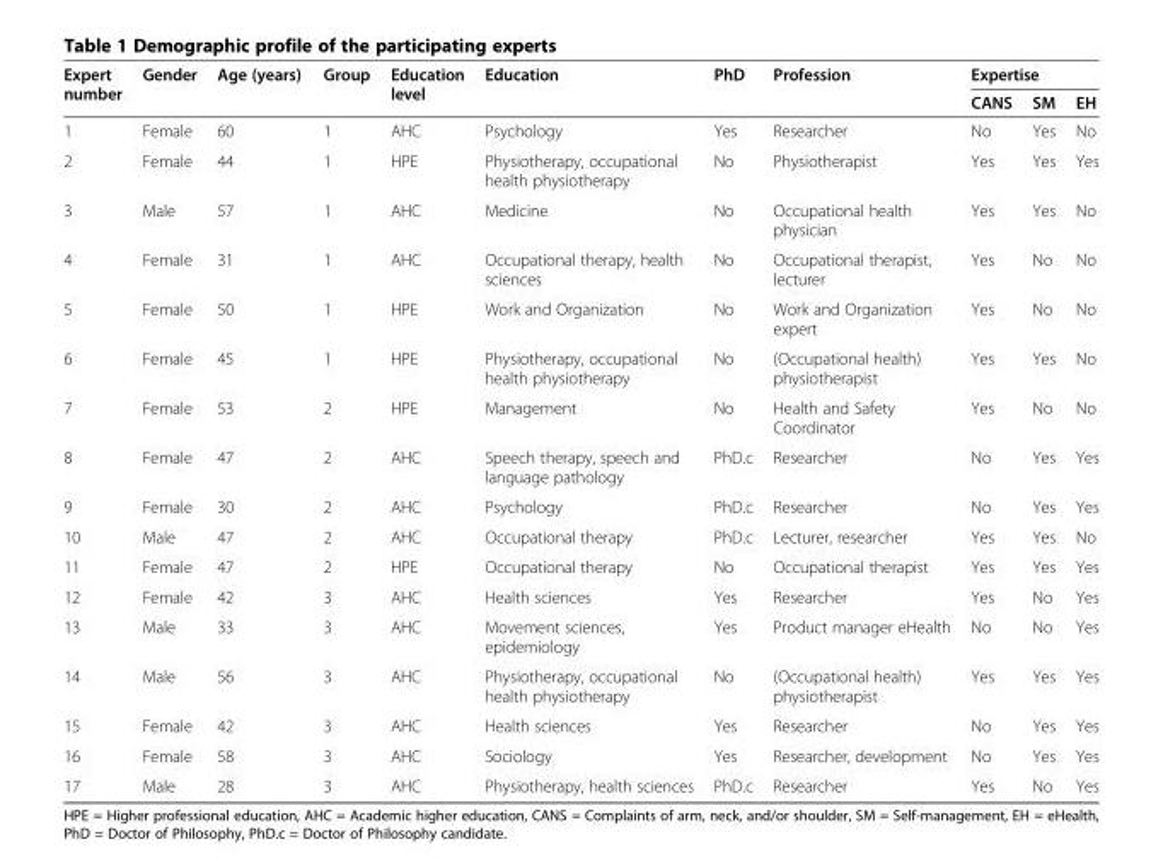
<table><thead><tr><td rowspan="2">Expert number</td><td rowspan="2">Gender</td><td rowspan="2">Age (years)</td><td rowspan="2">Group</td><td rowspan="2">Education level</td><td rowspan="2">Education</td><td rowspan="2">PhD</td><td rowspan="2">Profession</td><td colspan="3">Expertise</td></tr><tr><td>CANS</td><td>SM</td><td>EH</td></tr></thead><tbody><tr><td>1</td><td>Female</td><td>60</td><td>1</td><td>AHC</td><td>Psychology</td><td>Yes</td><td>Researcher</td><td>No</td><td>Yes</td><td>No</td></tr><tr><td>2</td><td>Female</td><td>44</td><td>1</td><td>HPE</td><td>Physiotherapy, occupational health physiotherapy</td><td>No</td><td>Physiotherapist</td><td>Yes</td><td>Yes</td><td>Yes</td></tr><tr><td>3</td><td>Male</td><td>57</td><td>1</td><td>AHC</td><td>Medicine</td><td>No</td><td>Occupational health physician</td><td>Yes</td><td>Yes</td><td>No</td></tr><tr><td>4</td><td>Female</td><td>31</td><td>1</td><td>AHC</td><td>Occupational therapy, health sciences</td><td>No</td><td>Occupational therapist, lecturer</td><td>Yes</td><td>No</td><td>No</td></tr><tr><td>5</td><td>Female</td><td>50</td><td>1</td><td>HPE</td><td>Work and Organization</td><td>No</td><td>Work and Organization expert</td><td>Yes</td><td>No</td><td>No</td></tr><tr><td>6</td><td>Female</td><td>45</td><td>1</td><td>HPE</td><td>Physiotherapy, occupational health physiotherapy</td><td>No</td><td>(Occupational health) physiotherapist</td><td>Yes</td><td>Yes</td><td>No</td></tr><tr><td>7</td><td>Female</td><td>53</td><td>2</td><td>HPE</td><td>Management</td><td>No</td><td>Health and Safety Coordinator</td><td>Yes</td><td>No</td><td>No</td></tr><tr><td>8</td><td>Female</td><td>47</td><td>2</td><td>AHC</td><td>Speech therapy, speech and language pathology</td><td>PhD.c</td><td>Researcher</td><td>No</td><td>Yes</td><td>Yes</td></tr><tr><td>9</td><td>Female</td><td>30</td><td>2</td><td>AHC</td><td>Psychology</td><td>PhD.c</td><td>Researcher</td><td>No</td><td>Yes</td><td>Yes</td></tr><tr><td>10</td><td>Male</td><td>47</td><td>2</td><td>AHC</td><td>Occupational therapy</td><td>PhD.c</td><td>Lecturer, researcher</td><td>Yes</td><td>Yes</td><td>No</td></tr><tr><td>11</td><td>Female</td><td>47</td><td>2</td><td>HPE</td><td>Occupational therapy</td><td>No</td><td>Occupational therapist</td><td>Yes</td><td>Yes</td><td>Yes</td></tr><tr><td>12</td><td>Female</td><td>42</td><td>3</td><td>AHC</td><td>Health sciences</td><td>Yes</td><td>Researcher</td><td>Yes</td><td>No</td><td>Yes</td></tr><tr><td>13</td><td>Male</td><td>33</td><td>3</td><td>AHC</td><td>Movement sciences, epidemiology</td><td>Yes</td><td>Product manager eHealth</td><td>No</td><td>No</td><td>Yes</td></tr><tr><td>14</td><td>Male</td><td>56</td><td>3</td><td>AHC</td><td>Physiotherapy, occupational health physiotherapy</td><td>No</td><td>(Occupational health) physiotherapist</td><td>Yes</td><td>Yes</td><td>Yes</td></tr><tr><td>15</td><td>Female</td><td>42</td><td>3</td><td>AHC</td><td>Health sciences</td><td>Yes</td><td>Researcher</td><td>No</td><td>Yes</td><td>Yes</td></tr><tr><td>16</td><td>Female</td><td>58</td><td>3</td><td>AHC</td><td>Sociology</td><td>Yes</td><td>Researcher, development</td><td>No</td><td>Yes</td><td>Yes</td></tr><tr><td>17</td><td>Male</td><td>28</td><td>3</td><td>AHC</td><td>Physiotherapy, health sciences</td><td>PhD.c</td><td>Researcher</td><td>Yes</td><td>No</td><td>Yes</td></tr></tbody></table>